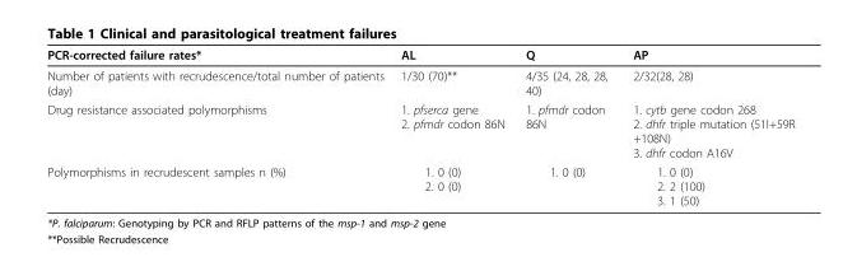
<table><thead><tr><td>PCR-corrected failure rates*</td><td>AL</td><td>Q</td><td>AP</td></tr></thead><tbody><tr><td>Number of patients with recrudescence/total number of patients (day)</td><td>1/30 (70)**</td><td>4/35 (24, 28, 28, 40)</td><td>2/32(28, 28)</td></tr><tr><td>Drug resistance associated polymorphisms</td><td>1. pfserca gene 2. pfmdr codon 86N</td><td>1. pfmdr codon 86N</td><td>1. cytb gene codon 268 2. dhfr triple mutation (51I+59R +108N) 3. dhfr codon A16V</td></tr><tr><td>Polymorphisms in recrudescent samples n (%)</td><td>1. 0 (0) 2. 0 (0)</td><td>1. 0 (0)</td><td>1. 0 (0) 2. 2 (100) 3. 1 (50)</td></tr></tbody></table>